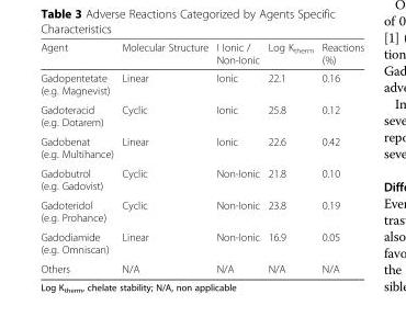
<table><thead><tr><td>Agent</td><td>Molecular Structure</td><td>I Ionic / Non-Ionic</td><td>Log K<sub>therm</sub></td><td>Reactions (%)</td></tr></thead><tbody><tr><td>Gadopentetate (e.g. Magnevist)</td><td>Linear</td><td>Ionic</td><td>22.1</td><td>0.16</td></tr><tr><td>Gadoteracid (e.g. Dotarem)</td><td>Cyclic</td><td>Ionic</td><td>25.8</td><td>0.12</td></tr><tr><td>Gadobenat (e.g. Multihance)</td><td>Linear</td><td>Ionic</td><td>22.6</td><td>0.42</td></tr><tr><td>Gadobutrol (e.g. Gadovist)</td><td>Cyclic</td><td>Non-Ionic</td><td>21.8</td><td>0.10</td></tr><tr><td>Gadoteridol (e.g. Prohance)</td><td>Cyclic</td><td>Non-Ionic</td><td>23.8</td><td>0.19</td></tr><tr><td>Gadodiamide (e.g. Omniscan)</td><td>Linear</td><td>Non-Ionic</td><td>16.9</td><td>0.05</td></tr><tr><td>Others</td><td>N/A</td><td>N/A</td><td>N/A</td><td>N/A</td></tr></tbody></table>